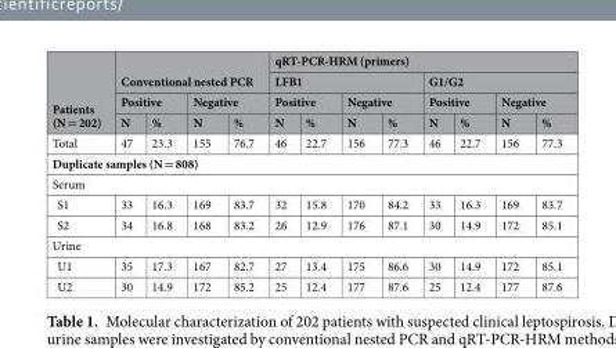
<table><thead><tr><td rowspan="4">Patients (N = 202)</td><td rowspan="2" colspan="4">Conventional nested PCR</td><td colspan="8">qRT-PCR-HRM (primers)</td></tr><tr><td colspan="4">LFB1</td><td colspan="4">G1/G2</td></tr><tr><td colspan="2">Positive</td><td colspan="2">Negative</td><td colspan="2">Positive</td><td colspan="2">Negative</td><td colspan="2">Positive</td><td colspan="2">Negative</td></tr><tr><td>N</td><td>%</td><td>N</td><td>%</td><td>N</td><td>%</td><td>N</td><td>%</td><td>N</td><td>%</td><td>N</td><td>%</td></tr></thead><tbody><tr><td>Total</td><td>47</td><td>23.3</td><td>155</td><td>76.7</td><td>46</td><td>22.7</td><td>156</td><td>77.3</td><td>46</td><td>22.7</td><td>156</td><td>77.3</td></tr><tr><td colspan="13">Duplicate samples (N = 808)</td></tr><tr><td colspan="13">Serum</td></tr><tr><td>S1</td><td>33</td><td>16.3</td><td>169</td><td>83.7</td><td>32</td><td>15.8</td><td>170</td><td>84.2</td><td>33</td><td>16.3</td><td>169</td><td>83.7</td></tr><tr><td>S2</td><td>34</td><td>16.8</td><td>168</td><td>83.2</td><td>26</td><td>12.9</td><td>176</td><td>87.1</td><td>30</td><td>14.9</td><td>172</td><td>85.1</td></tr><tr><td colspan="13">Urine</td></tr><tr><td>U1</td><td>35</td><td>17.3</td><td>167</td><td>82.7</td><td>27</td><td>13.4</td><td>175</td><td>86.6</td><td>30</td><td>14.9</td><td>172</td><td>85.1</td></tr><tr><td>U2</td><td>30</td><td>14.9</td><td>172</td><td>85.2</td><td>25</td><td>12.4</td><td>177</td><td>87.6</td><td>25</td><td>12.4</td><td>177</td><td>87.6</td></tr></tbody></table>